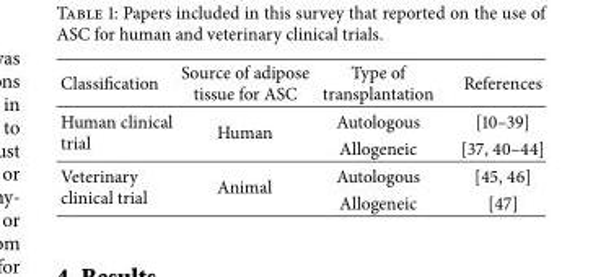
<table><thead><tr><td>Classification</td><td>Source of adipose tissue for ASC</td><td>Type of transplantation</td><td>References</td></tr></thead><tbody><tr><td rowspan="2">Human clinical trial</td><td rowspan="2">Human</td><td>Autologous</td><td>[10–39]</td></tr><tr><td>Allogeneic</td><td>[37, 40–44]</td></tr><tr><td rowspan="2">Veterinary clinical trial</td><td rowspan="2">Animal</td><td>Autologous</td><td>[45, 46]</td></tr><tr><td>Allogeneic</td><td>[47]</td></tr></tbody></table>